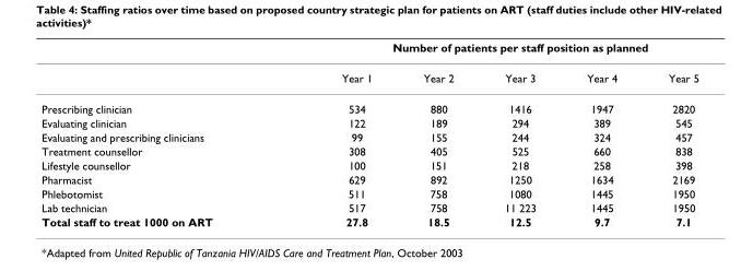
<table><thead><tr><td rowspan="2"></td><td colspan="5">Number of patients per staff position as planned</td></tr><tr><td>Year 1</td><td>Year 2</td><td>Year 3</td><td>Year 4</td><td>Year 5</td></tr></thead><tbody><tr><td>Prescribing clinician</td><td>534</td><td>880</td><td>1416</td><td>1947</td><td>2820</td></tr><tr><td>Evaluating clinician</td><td>122</td><td>189</td><td>294</td><td>389</td><td>545</td></tr><tr><td>Evaluating and prescribing clinicians</td><td>99</td><td>155</td><td>244</td><td>324</td><td>457</td></tr><tr><td>Treatment counsellor</td><td>308</td><td>405</td><td>525</td><td>660</td><td>838</td></tr><tr><td>Lifestyle counsellor</td><td>100</td><td>151</td><td>218</td><td>258</td><td>398</td></tr><tr><td>Pharmacist</td><td>629</td><td>892</td><td>1250</td><td>1634</td><td>2169</td></tr><tr><td>Phlebotomist</td><td>511</td><td>758</td><td>1080</td><td>1445</td><td>1950</td></tr><tr><td>Lab technician</td><td>517</td><td>758</td><td>11 223</td><td>1445</td><td>1950</td></tr><tr><td>Total staff to treat 1000 on ART</td><td>27.8</td><td>18.5</td><td>12.5</td><td>9.7</td><td>7.1</td></tr></tbody></table>